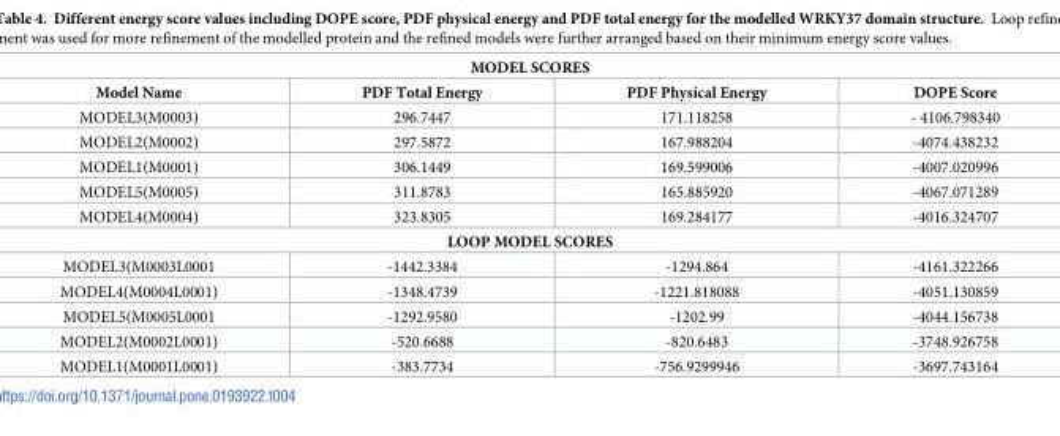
<table><thead><tr><td colspan="4">MODEL SCORES</td></tr><tr><td>Model Name</td><td>PDF Total Energy</td><td>PDF Physical Energy</td><td>DOPE Score</td></tr></thead><tbody><tr><td>MODEL3(M0003)</td><td>296.7447</td><td>171.118258</td><td>- 4106.798340</td></tr><tr><td>MODEL2(M0002)</td><td>297.5872</td><td>167.988204</td><td>-4074.438232</td></tr><tr><td>MODEL1(M0001)</td><td>306.1449</td><td>169.599006</td><td>-4007.020996</td></tr><tr><td>MODEL5(M0005)</td><td>311.8783</td><td>165.885920</td><td>-4067.071289</td></tr><tr><td>MODEL4(M0004)</td><td>323.8305</td><td>169.284177</td><td>-4016.324707</td></tr><tr><td colspan="4">LOOP MODEL SCORES</td></tr><tr><td>MODEL3(M0003L0001</td><td>-1442.3384</td><td>-1294.864</td><td>-4161.322266</td></tr><tr><td>MODEL4(M0004L0001)</td><td>-1348.4739</td><td>-1221.818088</td><td>-4051.130859</td></tr><tr><td>MODEL5(M0005L0001</td><td>-1292.9580</td><td>-1202.99</td><td>-4044.156738</td></tr><tr><td>MODEL2(M0002L0001)</td><td>-520.6688</td><td>-820.6483</td><td>-3748.926758</td></tr><tr><td>MODEL1(M0001L0001)</td><td>-383.7734</td><td>-756.9299946</td><td>-3697.743164</td></tr></tbody></table>